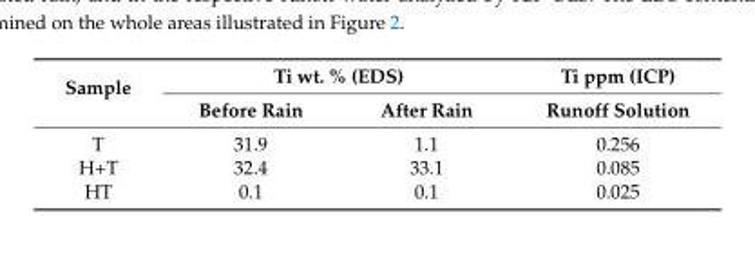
<table><thead><tr><td rowspan="2">Sample</td><td colspan="2">Ti wt. % (EDS)</td><td rowspan="2">Ti ppm (ICP) Runoff Solution</td></tr><tr><td>Before Rain</td><td>After Rain</td></tr></thead><tbody><tr><td>T</td><td>31.9</td><td>1.1</td><td>0.256</td></tr><tr><td>H+T</td><td>32.4</td><td>33.1</td><td>0.085</td></tr><tr><td>HT</td><td>0.1</td><td>0.1</td><td>0.025</td></tr></tbody></table>